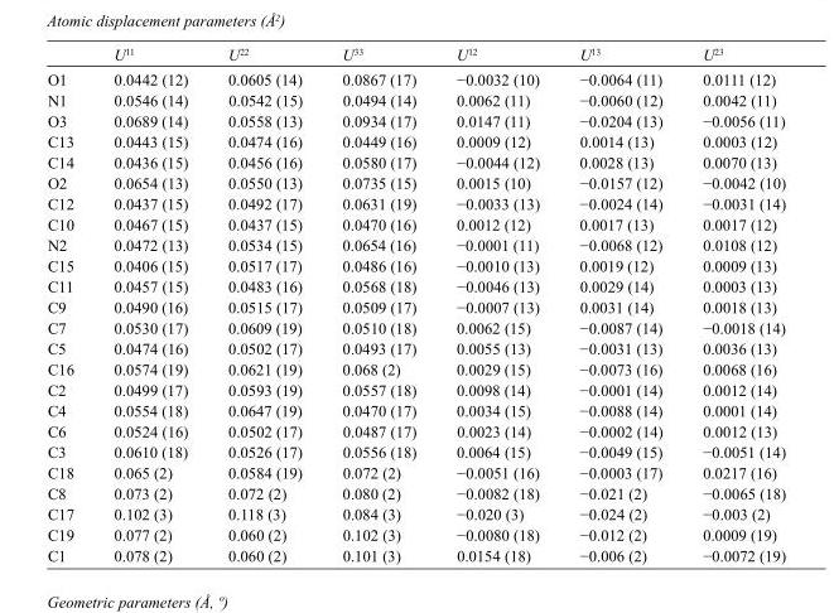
<table><thead><tr><td></td><td>U<sup>11</sup></td><td>U<sup>22</sup></td><td>U<sup>33</sup></td><td>U<sup>12</sup></td><td>U<sup>13</sup></td><td>U<sup>23</sup></td></tr></thead><tbody><tr><td>O1</td><td>0.0442 (12)</td><td>0.0605 (14)</td><td>0.0867 (17)</td><td>−0.0032 (10)</td><td>−0.0064 (11)</td><td>0.0111 (12)</td></tr><tr><td>N1</td><td>0.0546 (14)</td><td>0.0542 (15)</td><td>0.0494 (14)</td><td>0.0062 (11)</td><td>−0.0060 (12)</td><td>0.0042 (11)</td></tr><tr><td>O3</td><td>0.0689 (14)</td><td>0.0558 (13)</td><td>0.0934 (17)</td><td>0.0147 (11)</td><td>−0.0204 (13)</td><td>−0.0056 (11)</td></tr><tr><td>C13</td><td>0.0443 (15)</td><td>0.0474 (16)</td><td>0.0449 (16)</td><td>0.0009 (12)</td><td>0.0014 (13)</td><td>0.0003 (12)</td></tr><tr><td>C14</td><td>0.0436 (15)</td><td>0.0456 (16)</td><td>0.0580 (17)</td><td>−0.0044 (12)</td><td>0.0028 (13)</td><td>0.0070 (13)</td></tr><tr><td>O2</td><td>0.0654 (13)</td><td>0.0550 (13)</td><td>0.0735 (15)</td><td>0.0015 (10)</td><td>−0.0157 (12)</td><td>−0.0042 (10)</td></tr><tr><td>C12</td><td>0.0437 (15)</td><td>0.0492 (17)</td><td>0.0631 (19)</td><td>−0.0033 (13)</td><td>−0.0024 (14)</td><td>−0.0031 (14)</td></tr><tr><td>C10</td><td>0.0467 (15)</td><td>0.0437 (15)</td><td>0.0470 (16)</td><td>0.0012 (12)</td><td>0.0017 (13)</td><td>0.0017 (12)</td></tr><tr><td>N2</td><td>0.0472 (13)</td><td>0.0534 (15)</td><td>0.0654 (16)</td><td>−0.0001 (11)</td><td>−0.0068 (12)</td><td>0.0108 (12)</td></tr><tr><td>C15</td><td>0.0406 (15)</td><td>0.0517 (17)</td><td>0.0486 (16)</td><td>−0.0010 (13)</td><td>0.0019 (12)</td><td>0.0009 (13)</td></tr><tr><td>C11</td><td>0.0457 (15)</td><td>0.0483 (16)</td><td>0.0568 (18)</td><td>−0.0046 (13)</td><td>0.0029 (14)</td><td>0.0003 (13)</td></tr><tr><td>C9</td><td>0.0490 (16)</td><td>0.0515 (17)</td><td>0.0509 (17)</td><td>−0.0007 (13)</td><td>0.0031 (14)</td><td>0.0018 (13)</td></tr><tr><td>C7</td><td>0.0530 (17)</td><td>0.0609 (19)</td><td>0.0510 (18)</td><td>0.0062 (15)</td><td>−0.0087 (14)</td><td>−0.0018 (14)</td></tr><tr><td>C5</td><td>0.0474 (16)</td><td>0.0502 (17)</td><td>0.0493 (17)</td><td>0.0055 (13)</td><td>−0.0031 (13)</td><td>0.0036 (13)</td></tr><tr><td>C16</td><td>0.0574 (19)</td><td>0.0621 (19)</td><td>0.068 (2)</td><td>0.0029 (15)</td><td>−0.0073 (16)</td><td>0.0068 (16)</td></tr><tr><td>C2</td><td>0.0499 (17)</td><td>0.0593 (19)</td><td>0.0557 (18)</td><td>0.0098 (14)</td><td>−0.0001 (14)</td><td>0.0012 (14)</td></tr><tr><td>C4</td><td>0.0554 (18)</td><td>0.0647 (19)</td><td>0.0470 (17)</td><td>0.0034 (15)</td><td>−0.0088 (14)</td><td>0.0001 (14)</td></tr><tr><td>C6</td><td>0.0524 (16)</td><td>0.0502 (17)</td><td>0.0487 (17)</td><td>0.0023 (14)</td><td>−0.0002 (14)</td><td>0.0012 (13)</td></tr><tr><td>C3</td><td>0.0610 (18)</td><td>0.0526 (17)</td><td>0.0556 (18)</td><td>0.0064 (15)</td><td>−0.0049 (15)</td><td>−0.0051 (14)</td></tr><tr><td>C18</td><td>0.065 (2)</td><td>0.0584 (19)</td><td>0.072 (2)</td><td>−0.0051 (16)</td><td>−0.0003 (17)</td><td>0.0217 (16)</td></tr><tr><td>C8</td><td>0.073 (2)</td><td>0.072 (2)</td><td>0.080 (2)</td><td>−0.0082 (18)</td><td>−0.021 (2)</td><td>−0.0065 (18)</td></tr><tr><td>C17</td><td>0.102 (3)</td><td>0.118 (3)</td><td>0.084 (3)</td><td>−0.020 (3)</td><td>−0.024 (2)</td><td>−0.003 (2)</td></tr><tr><td>C19</td><td>0.077 (2)</td><td>0.060 (2)</td><td>0.102 (3)</td><td>−0.0080 (18)</td><td>−0.012 (2)</td><td>0.0009 (19)</td></tr><tr><td>C1</td><td>0.078 (2)</td><td>0.060 (2)</td><td>0.101 (3)</td><td>0.0154 (18)</td><td>−0.006 (2)</td><td>−0.0072 (19)</td></tr></tbody></table>